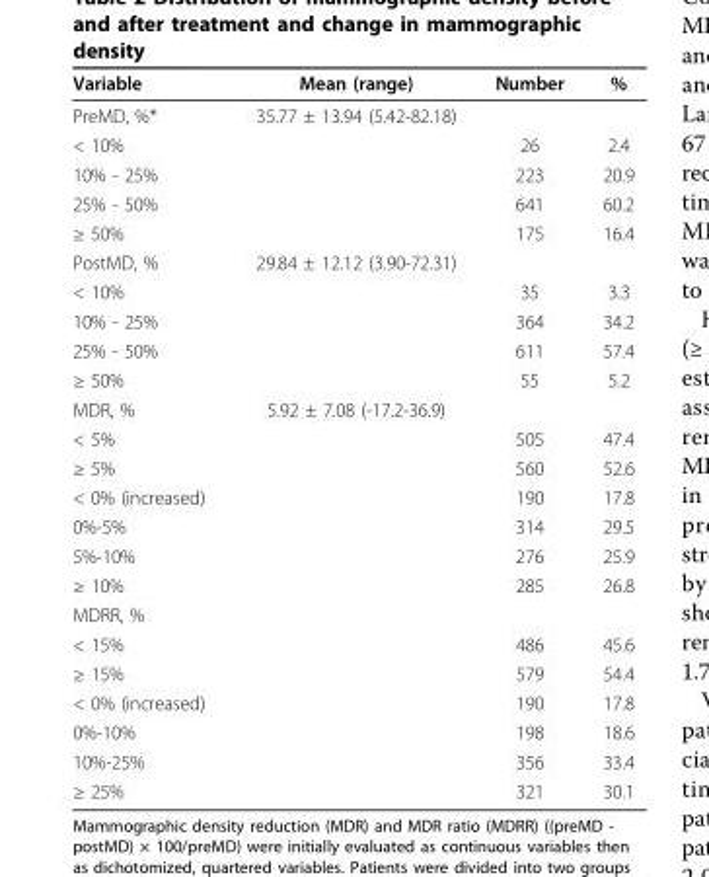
<table><thead><tr><td>Variable</td><td>Mean (range)</td><td>Number</td><td>%</td></tr></thead><tbody><tr><td>PreMD, %*</td><td>35.77 ± 13.94 (5.42-82.18)</td><td></td><td></td></tr><tr><td>&lt; 10%</td><td></td><td>26</td><td>2.4</td></tr><tr><td>10% - 25%</td><td></td><td>223</td><td>20.9</td></tr><tr><td>25% - 50%</td><td></td><td>641</td><td>60.2</td></tr><tr><td>≥ 50%</td><td></td><td>175</td><td>16.4</td></tr><tr><td>PostMD, %</td><td>29.84 ± 12.12 (3.90-72.31)</td><td></td><td></td></tr><tr><td>&lt; 10%</td><td></td><td>35</td><td>3.3</td></tr><tr><td>10% - 25%</td><td></td><td>364</td><td>34.2</td></tr><tr><td>25% - 50%</td><td></td><td>611</td><td>57.4</td></tr><tr><td>≥ 50%</td><td></td><td>55</td><td>5.2</td></tr><tr><td>MDR, %</td><td>5.92 ± 7.08 (-17.2-36.9)</td><td></td><td></td></tr><tr><td>&lt; 5%</td><td></td><td>505</td><td>47.4</td></tr><tr><td>≥ 5%</td><td></td><td>560</td><td>52.6</td></tr><tr><td>&lt; 0% (increased)</td><td></td><td>190</td><td>17.8</td></tr><tr><td>0%-5%</td><td></td><td>314</td><td>29.5</td></tr><tr><td>5%-10%</td><td></td><td>276</td><td>25.9</td></tr><tr><td>≥ 10%</td><td></td><td>285</td><td>26.8</td></tr><tr><td colspan="4">MDRR, %</td></tr><tr><td>&lt; 15%</td><td></td><td>486</td><td>45.6</td></tr><tr><td>≥ 15%</td><td></td><td>579</td><td>54.4</td></tr><tr><td>&lt; 0% (increased)</td><td></td><td>190</td><td>17.8</td></tr><tr><td>0%-10%</td><td></td><td>198</td><td>18.6</td></tr><tr><td>10%-25%</td><td></td><td>356</td><td>33.4</td></tr><tr><td>≥ 25%</td><td></td><td>321</td><td>30.1</td></tr></tbody></table>